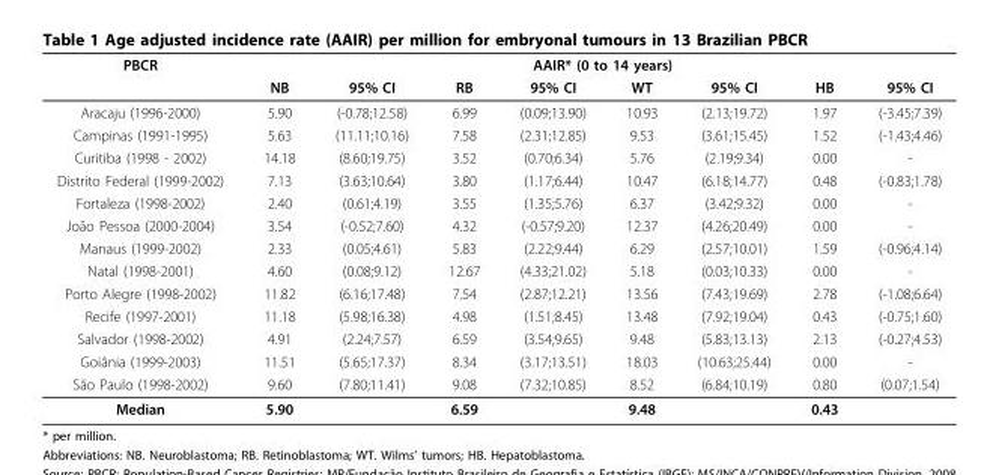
<table><thead><tr><td rowspan="2">PBCR</td><td colspan="8">AAIR* (0 to 14 years)</td></tr><tr><td>NB</td><td>95% CI</td><td>RB</td><td>95% CI</td><td>WT</td><td>95% CI</td><td>HB</td><td>95% CI</td></tr></thead><tbody><tr><td>Aracaju (1996-2000)</td><td>5.90</td><td>(-0.78;12.58)</td><td>6.99</td><td>(0.09;13.90)</td><td>10.93</td><td>(2.13;19.72)</td><td>1.97</td><td>(-3.45;7.39)</td></tr><tr><td>Campinas (1991-1995)</td><td>5.63</td><td>(11.11;10.16)</td><td>7.58</td><td>(2.31;12.85)</td><td>9.53</td><td>(3.61;15.45)</td><td>1.52</td><td>(-1.43;4.46)</td></tr><tr><td>Curitiba (1998 - 2002)</td><td>14.18</td><td>(8.60;19.75)</td><td>3.52</td><td>(0.70;6.34)</td><td>5.76</td><td>(2.19;9.34)</td><td>0.00</td><td>-</td></tr><tr><td>Distrito Federal (1999-2002)</td><td>7.13</td><td>(3.63;10.64)</td><td>3.80</td><td>(1.17;6.44)</td><td>10.47</td><td>(6.18;14.77)</td><td>0.48</td><td>(-0.83;1.78)</td></tr><tr><td>Fortaleza (1998-2002)</td><td>2.40</td><td>(0.61;4.19)</td><td>3.55</td><td>(1.35;5.76)</td><td>6.37</td><td>(3.42;9.32)</td><td>0.00</td><td>-</td></tr><tr><td>João Pessoa (2000-2004)</td><td>3.54</td><td>(-0.52;7.60)</td><td>4.32</td><td>(-0.57;9.20)</td><td>12.37</td><td>(4.26;20.49)</td><td>0.00</td><td>-</td></tr><tr><td>Manaus (1999-2002)</td><td>2.33</td><td>(0.05;4.61)</td><td>5.83</td><td>(2.22;9.44)</td><td>6.29</td><td>(2.57;10.01)</td><td>1.59</td><td>(-0.96;4.14)</td></tr><tr><td>Natal (1998-2001)</td><td>4.60</td><td>(0.08;9.12)</td><td>12.67</td><td>(4.33;21.02)</td><td>5.18</td><td>(0.03;10.33)</td><td>0.00</td><td>-</td></tr><tr><td>Porto Alegre (1998-2002)</td><td>11.82</td><td>(6.16;17.48)</td><td>7.54</td><td>(2.87;12.21)</td><td>13.56</td><td>(7.43;19.69)</td><td>2.78</td><td>(-1.08;6.64)</td></tr><tr><td>Recife (1997-2001)</td><td>11.18</td><td>(5.98;16.38)</td><td>4.98</td><td>(1.51;8.45)</td><td>13.48</td><td>(7.92;19.04)</td><td>0.43</td><td>(-0.75;1.60)</td></tr><tr><td>Salvador (1998-2002)</td><td>4.91</td><td>(2.24;7.57)</td><td>6.59</td><td>(3.54;9.65)</td><td>9.48</td><td>(5.83;13.13)</td><td>2.13</td><td>(-0.27;4.53)</td></tr><tr><td>Goiânia (1999-2003)</td><td>11.51</td><td>(5.65;17.37)</td><td>8.34</td><td>(3.17;13.51)</td><td>18.03</td><td>(10.63;25.44)</td><td>0.00</td><td>-</td></tr><tr><td>São Paulo (1998-2002)</td><td>9.60</td><td>(7.80;11.41)</td><td>9.08</td><td>(7.32;10.85)</td><td>8.52</td><td>(6.84;10.19)</td><td>0.80</td><td>(0.07;1.54)</td></tr><tr><td>Median</td><td>5.90</td><td></td><td>6.59</td><td></td><td>9.48</td><td></td><td>0.43</td><td></td></tr></tbody></table>